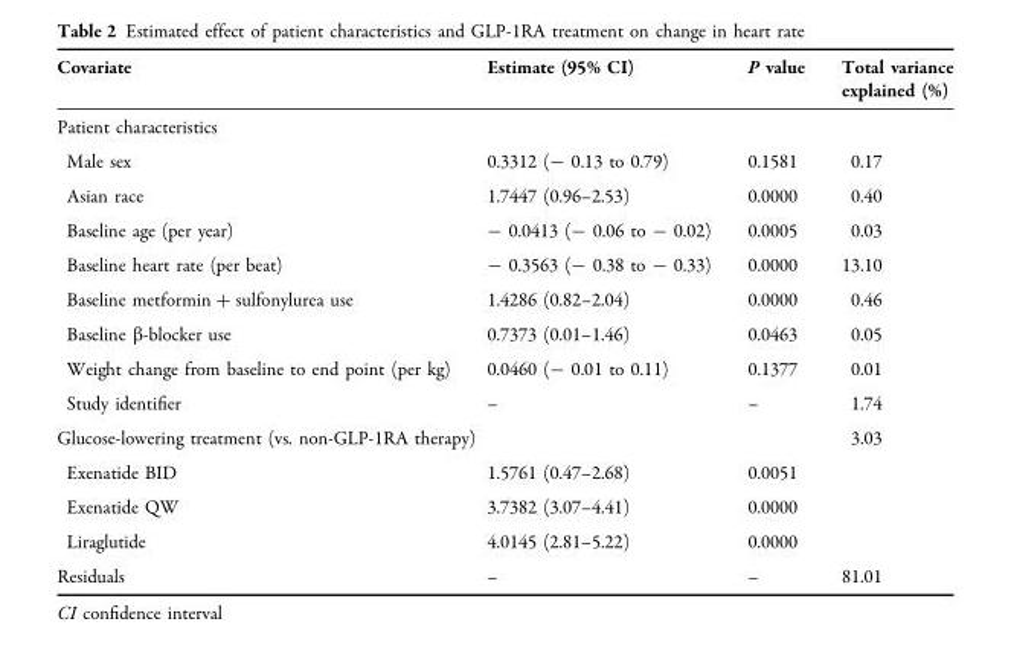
<table><thead><tr><td>Covariate</td><td>Estimate (95% CI)</td><td>P value</td><td>Total variance explained (%)</td></tr></thead><tbody><tr><td colspan="4">Patient characteristics</td></tr><tr><td>Male sex</td><td>0.3312 (- 0.13 to 0.79)</td><td>0.1581</td><td>0.17</td></tr><tr><td>Asian race</td><td>1.7447 (0.96–2.53)</td><td>0.0000</td><td>0.40</td></tr><tr><td>Baseline age (per year)</td><td>- 0.0413 (- 0.06 to - 0.02)</td><td>0.0005</td><td>0.03</td></tr><tr><td>Baseline heart rate (per beat)</td><td>- 0.3563 (- 0.38 to - 0.33)</td><td>0.0000</td><td>13.10</td></tr><tr><td>Baseline metformin + sulfonylurea use</td><td>1.4286 (0.82–2.04)</td><td>0.0000</td><td>0.46</td></tr><tr><td>Baseline β-blocker use</td><td>0.7373 (0.01–1.46)</td><td>0.0463</td><td>0.05</td></tr><tr><td>Weight change from baseline to end point (per kg)</td><td>0.0460 (- 0.01 to 0.11)</td><td>0.1377</td><td>0.01</td></tr><tr><td>Study identifier</td><td>–</td><td>–</td><td>1.74</td></tr><tr><td colspan="3">Glucose-lowering treatment (vs. non-GLP-1RA therapy)</td><td>3.03</td></tr><tr><td>Exenatide BID</td><td>1.5761 (0.47–2.68)</td><td>0.0051</td><td></td></tr><tr><td>Exenatide QW</td><td>3.7382 (3.07–4.41)</td><td>0.0000</td><td></td></tr><tr><td>Liraglutide</td><td>4.0145 (2.81–5.22)</td><td>0.0000</td><td></td></tr><tr><td>Residuals</td><td>–</td><td>–</td><td>81.01</td></tr></tbody></table>